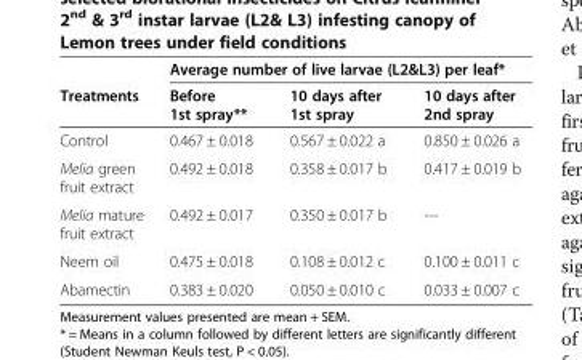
<table><thead><tr><td rowspan="2">Treatments</td><td colspan="3">Average number of live larvae (L2&amp;L3) per leaf*</td></tr><tr><td>Before 1st spray**</td><td>10 days after 1st spray</td><td>10 days after 2nd spray</td></tr></thead><tbody><tr><td>Control</td><td>0.467 ± 0.018</td><td>0.567 ± 0.022 a</td><td>0.850 ± 0.026 a</td></tr><tr><td>Melia green fruit extract</td><td>0.492 ± 0.018</td><td>0.358 ± 0.017 b</td><td>0.417 ± 0.019 b</td></tr><tr><td>Melia mature fruit extract</td><td>0.492 ± 0.017</td><td>0.350 ± 0.017 b</td><td>---</td></tr><tr><td>Neem oil</td><td>0.475 ± 0.018</td><td>0.108 ± 0.012 c</td><td>0.100 ± 0.011 c</td></tr><tr><td>Abamectin</td><td>0.383 ± 0.020</td><td>0.050 ± 0.010 c</td><td>0.033 ± 0.007 c</td></tr></tbody></table>